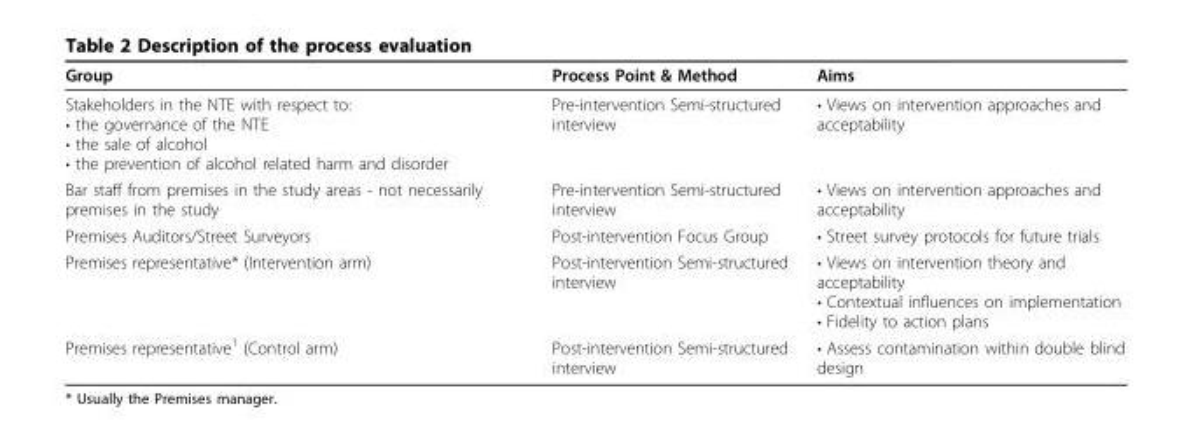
<table><thead><tr><td>Group</td><td>Process Point &amp; Method</td><td>Aims</td></tr></thead><tbody><tr><td>Stakeholders in the NTE with respect to: • the governance of the NTE • the sale of alcohol • the prevention of alcohol related harm and disorder</td><td>Pre-intervention Semi-structured interview</td><td>• Views on intervention approaches and acceptability</td></tr><tr><td>Bar staff from premises in the study areas - not necessarily premises in the study</td><td>Pre-intervention Semi-structured interview</td><td>• Views on intervention approaches and acceptability</td></tr><tr><td>Premises Auditors/Street Surveyors</td><td>Post-intervention Focus Group</td><td>• Street survey protocols for future trials</td></tr><tr><td>Premises representative* (Intervention arm)</td><td>Post-intervention Semi-structured interview</td><td>• Views on intervention theory and acceptability • Contextual influences on implementation • Fidelity to action plans</td></tr><tr><td>Premises representative<sup>1</sup> (Control arm)</td><td>Post-intervention Semi-structured interview</td><td>• Assess contamination within double blind design</td></tr></tbody></table>